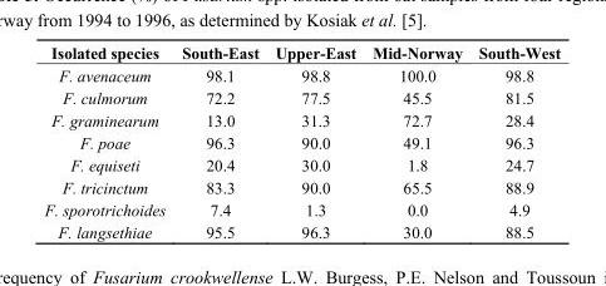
<table><thead><tr><td>Isolated species</td><td>South-East</td><td>Upper-East</td><td>Mid-Norway</td><td>South-West</td></tr></thead><tbody><tr><td>F. avenaceum</td><td>98.1</td><td>98.8</td><td>100.0</td><td>98.8</td></tr><tr><td>F. culmorum</td><td>72.2</td><td>77.5</td><td>45.5</td><td>81.5</td></tr><tr><td>F. graminearum</td><td>13.0</td><td>31.3</td><td>72.7</td><td>28.4</td></tr><tr><td>F. poae</td><td>96.3</td><td>90.0</td><td>49.1</td><td>96.3</td></tr><tr><td>F. equiseti</td><td>20.4</td><td>30.0</td><td>1.8</td><td>24.7</td></tr><tr><td>F. tricinctum</td><td>83.3</td><td>90.0</td><td>65.5</td><td>88.9</td></tr><tr><td>F. sporotrichoides</td><td>7.4</td><td>1.3</td><td>0.0</td><td>4.9</td></tr><tr><td>F. langsethiae</td><td>95.5</td><td>96.3</td><td>30.0</td><td>88.5</td></tr></tbody></table>